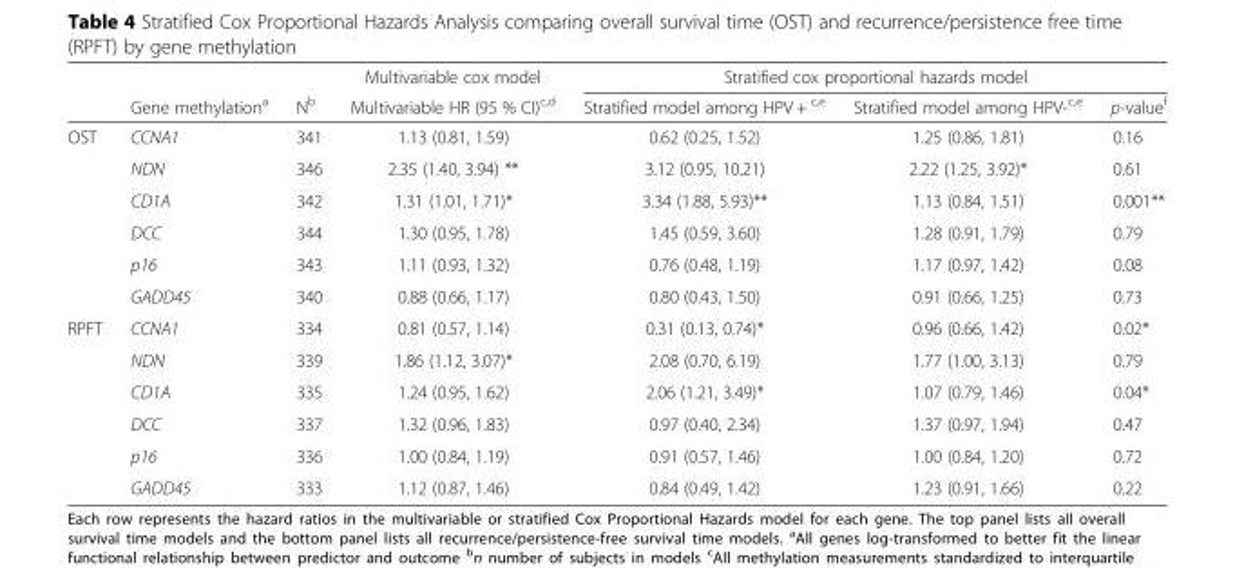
<table><thead><tr><td rowspan="2"></td><td rowspan="2">Gene methylation<sup>a</sup></td><td rowspan="2">N<sup>b</sup></td><td rowspan="2">Multivariable cox model Multivariable HR (95 % CI)<sup>c,d</sup></td><td colspan="3">Stratified cox proportional hazards model</td></tr><tr><td>Stratified model among HPV + <sup>c,e</sup></td><td>Stratified model among HPV-<sup>c,e</sup></td><td>p-value<sup>f</sup></td></tr></thead><tbody><tr><td rowspan="6">OST</td><td>CCNA1</td><td>341</td><td>1.13 (0.81, 1.59)</td><td>0.62 (0.25, 1.52)</td><td>1.25 (0.86, 1.81)</td><td>0.16</td></tr><tr><td>NDN</td><td>346</td><td>2.35 (1.40, 3.94) **</td><td>3.12 (0.95, 10.21)</td><td>2.22 (1.25, 3.92)*</td><td>0.61</td></tr><tr><td>CD1A</td><td>342</td><td>1.31 (1.01, 1.71)*</td><td>3.34 (1.88, 5.93)**</td><td>1.13 (0.84, 1.51)</td><td>0.001**</td></tr><tr><td>DCC</td><td>344</td><td>1.30 (0.95, 1.78)</td><td>1.45 (0.59, 3.60)</td><td>1.28 (0.91, 1.79)</td><td>0.79</td></tr><tr><td>p16</td><td>343</td><td>1.11 (0.93, 1.32)</td><td>0.76 (0.48, 1.19)</td><td>1.17 (0.97, 1.42)</td><td>0.08</td></tr><tr><td>GADD45</td><td>340</td><td>0.88 (0.66, 1.17)</td><td>0.80 (0.43, 1.50)</td><td>0.91 (0.66, 1.25)</td><td>0.73</td></tr><tr><td rowspan="6">RPFT</td><td>CCNA1</td><td>334</td><td>0.81 (0.57, 1.14)</td><td>0.31 (0.13, 0.74)*</td><td>0.96 (0.66, 1.42)</td><td>0.02*</td></tr><tr><td>NDN</td><td>339</td><td>1.86 (1.12, 3.07)*</td><td>2.08 (0.70, 6.19)</td><td>1.77 (1.00, 3.13)</td><td>0.79</td></tr><tr><td>CD1A</td><td>335</td><td>1.24 (0.95, 1.62)</td><td>2.06 (1.21, 3.49)*</td><td>1.07 (0.79, 1.46)</td><td>0.04*</td></tr><tr><td>DCC</td><td>337</td><td>1.32 (0.96, 1.83)</td><td>0.97 (0.40, 2.34)</td><td>1.37 (0.97, 1.94)</td><td>0.47</td></tr><tr><td>p16</td><td>336</td><td>1.00 (0.84, 1.19)</td><td>0.91 (0.57, 1.46)</td><td>1.00 (0.84, 1.20)</td><td>0.72</td></tr><tr><td>GADD45</td><td>333</td><td>1.12 (0.87, 1.46)</td><td>0.84 (0.49, 1.42)</td><td>1.23 (0.91, 1.66)</td><td>0.22</td></tr></tbody></table>